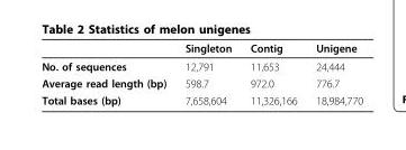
<table><thead><tr><td></td><td>Singleton</td><td>Contig</td><td>Unigene</td></tr></thead><tbody><tr><td>No. of sequences</td><td>12,791</td><td>11,653</td><td>24,444</td></tr><tr><td>Average read length (bp)</td><td>598.7</td><td>972.0</td><td>776.7</td></tr><tr><td>Total bases (bp)</td><td>7,658,604</td><td>11,326,166</td><td>18,984,770</td></tr></tbody></table>